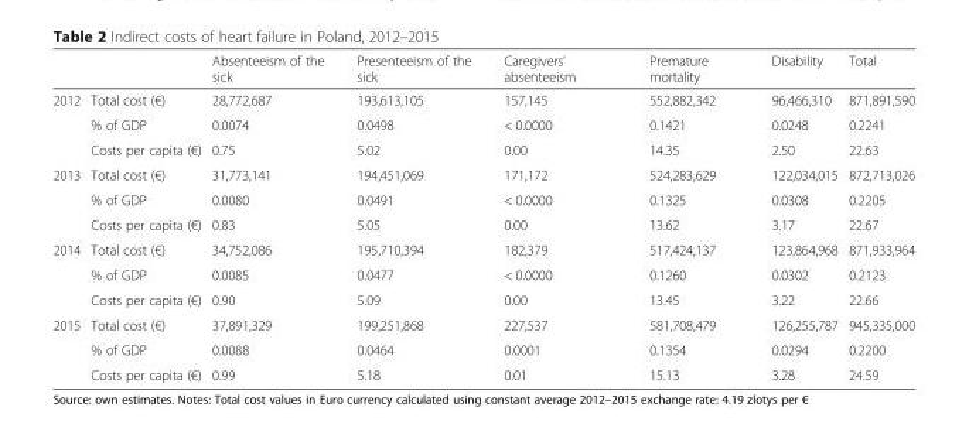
<table><thead><tr><td></td><td></td><td>Absenteeism of the sick</td><td>Presenteeism of the sick</td><td>Caregivers’ absenteeism</td><td>Premature mortality</td><td>Disability</td><td>Total</td></tr></thead><tbody><tr><td rowspan="3">2012</td><td>Total cost (€)</td><td>28,772,687</td><td>193,613,105</td><td>157,145</td><td>552,882,342</td><td>96,466,310</td><td>871,891,590</td></tr><tr><td>% of GDP</td><td>0.0074</td><td>0.0498</td><td>&lt; 0.0000</td><td>0.1421</td><td>0.0248</td><td>0.2241</td></tr><tr><td>Costs per capita (€)</td><td>0.75</td><td>5.02</td><td>0.00</td><td>14.35</td><td>2.50</td><td>22.63</td></tr><tr><td rowspan="3">2013</td><td>Total cost (€)</td><td>31,773,141</td><td>194,451,069</td><td>171,172</td><td>524,283,629</td><td>122,034,015</td><td>872,713,026</td></tr><tr><td>% of GDP</td><td>0.0080</td><td>0.0491</td><td>&lt; 0.0000</td><td>0.1325</td><td>0.0308</td><td>0.2205</td></tr><tr><td>Costs per capita (€)</td><td>0.83</td><td>5.05</td><td>0.00</td><td>13.62</td><td>3.17</td><td>22.67</td></tr><tr><td rowspan="3">2014</td><td>Total cost (€)</td><td>34,752,086</td><td>195,710,394</td><td>182,379</td><td>517,424,137</td><td>123,864,968</td><td>871,933,964</td></tr><tr><td>% of GDP</td><td>0.0085</td><td>0.0477</td><td>&lt; 0.0000</td><td>0.1260</td><td>0.0302</td><td>0.2123</td></tr><tr><td>Costs per capita (€)</td><td>0.90</td><td>5.09</td><td>0.00</td><td>13.45</td><td>3.22</td><td>22.66</td></tr><tr><td rowspan="3">2015</td><td>Total cost (€)</td><td>37,891,329</td><td>199,251,868</td><td>227,537</td><td>581,708,479</td><td>126,255,787</td><td>945,335,000</td></tr><tr><td>% of GDP</td><td>0.0088</td><td>0.0464</td><td>0.0001</td><td>0.1354</td><td>0.0294</td><td>0.2200</td></tr><tr><td>Costs per capita (€)</td><td>0.99</td><td>5.18</td><td>0.01</td><td>15.13</td><td>3.28</td><td>24.59</td></tr></tbody></table>